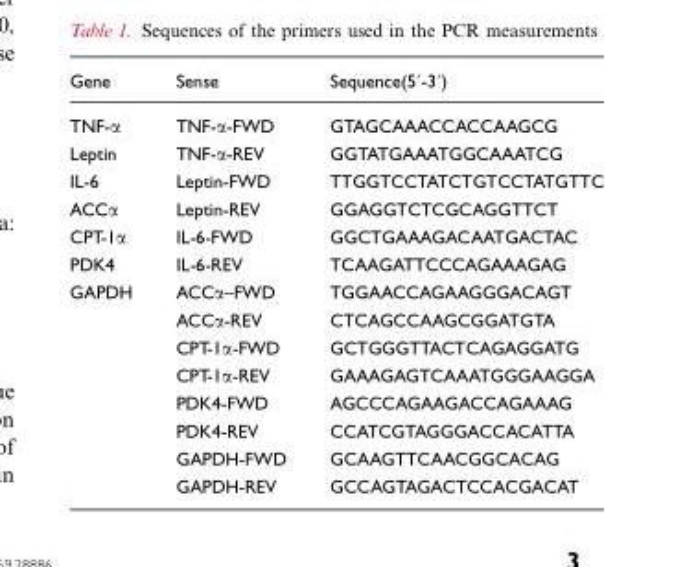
<table><thead><tr><td>Gene</td><td>Sense</td><td>Sequence(5′-3′)</td></tr></thead><tbody><tr><td>TNF-α</td><td>TNF-α-FWD</td><td>GTAGCAAACCACCAAGCG</td></tr><tr><td>Leptin</td><td>TNF-α-REV</td><td>GGTATGAAATGGCAAATCG</td></tr><tr><td>IL-6</td><td>Leptin-FWD</td><td>TTGGTCCTATCTGTCCTATGTTC</td></tr><tr><td>ACCα</td><td>Leptin-REV</td><td>GGAGGTCTCGCAGGTTCT</td></tr><tr><td>CPT-1α</td><td>IL-6-FWD</td><td>GGCTGAAAGACAATGACTAC</td></tr><tr><td>PDK4</td><td>IL-6-REV</td><td>TCAAGATTCCCAGAAAGAG</td></tr><tr><td rowspan="8">GAPDH</td><td>ACCa–FWD</td><td>TGGAACCAGAAGGGACAGT</td></tr><tr><td>ACCα-REV</td><td>CTCAGCCAAGCGGATGTA</td></tr><tr><td>CPT-1α-FWD</td><td>GCTGGGTTACTCAGAGGATG</td></tr><tr><td>CPT-1α-REV</td><td>GAAAGAGTCAAATGGGAAGGA</td></tr><tr><td>PDK4-FWD</td><td>AGCCCAGAAGACCAGAAAG</td></tr><tr><td>PDK4-REV</td><td>CCATCGTAGGGACCACATTA</td></tr><tr><td>GAPDH-FWD</td><td>GCAAGTTCAACGGCACAG</td></tr><tr><td>GAPDH-REV</td><td>GCCAGTAGACTCCACGACAT</td></tr></tbody></table>